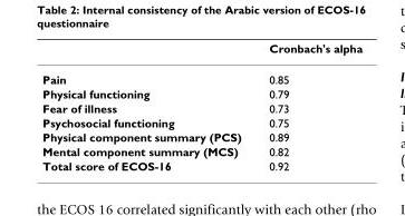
<table><thead><tr><td></td><td>Cronbach&#x27;s alpha</td></tr></thead><tbody><tr><td>Pain</td><td>0.85</td></tr><tr><td>Physical functioning</td><td>0.79</td></tr><tr><td>Fear of illness</td><td>0.73</td></tr><tr><td>Psychosocial functioning</td><td>0.75</td></tr><tr><td>Physical component summary (PCS)</td><td>0.89</td></tr><tr><td>Mental component summary (MCS)</td><td>0.82</td></tr><tr><td>Total score of ECOS-16</td><td>0.92</td></tr></tbody></table>